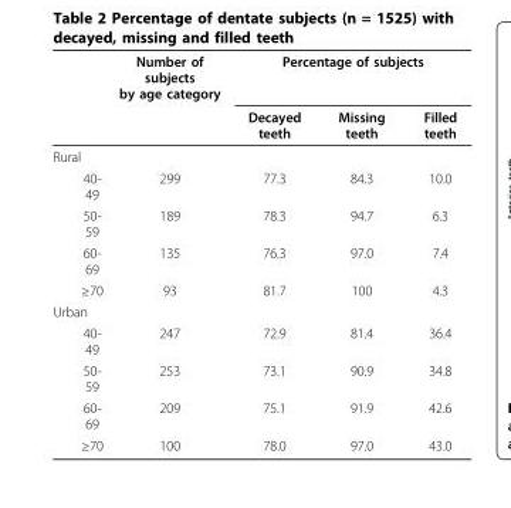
<table><thead><tr><td rowspan="2"></td><td rowspan="2">Number of subjects by age category</td><td colspan="3">Percentage of subjects</td></tr><tr><td>Decayed teeth</td><td>Missing teeth</td><td>Filled teeth</td></tr></thead><tbody><tr><td colspan="5">Rural</td></tr><tr><td>40- 49</td><td>299</td><td>77.3</td><td>84.3</td><td>10.0</td></tr><tr><td>50- 59</td><td>189</td><td>78.3</td><td>94.7</td><td>6.3</td></tr><tr><td>60- 69</td><td>135</td><td>76.3</td><td>97.0</td><td>7.4</td></tr><tr><td>≥70</td><td>93</td><td>81.7</td><td>100</td><td>4.3</td></tr><tr><td colspan="5">Urban</td></tr><tr><td>40- 49</td><td>247</td><td>72.9</td><td>81.4</td><td>36.4</td></tr><tr><td>50- 59</td><td>253</td><td>73.1</td><td>90.9</td><td>34.8</td></tr><tr><td>60- 69</td><td>209</td><td>75.1</td><td>91.9</td><td>42.6</td></tr><tr><td>≥70</td><td>100</td><td>78.0</td><td>97.0</td><td>43.0</td></tr></tbody></table>